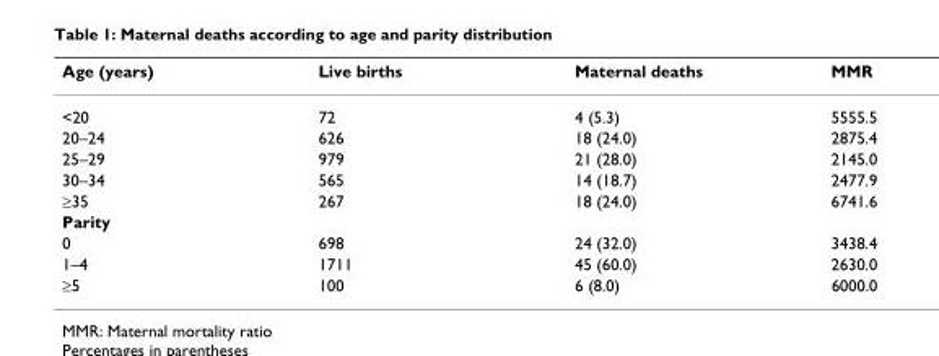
<table><thead><tr><td>Age (years)</td><td>Live births</td><td>Maternal deaths</td><td>MMR</td></tr></thead><tbody><tr><td>&lt;20</td><td>72</td><td>4 (5.3)</td><td>5555.5</td></tr><tr><td>20–24</td><td>626</td><td>18 (24.0)</td><td>2875.4</td></tr><tr><td>25–29</td><td>979</td><td>21 (28.0)</td><td>2145.0</td></tr><tr><td>30–34</td><td>565</td><td>14 (18.7)</td><td>2477.9</td></tr><tr><td>≥35</td><td>267</td><td>18 (24.0)</td><td>6741.6</td></tr><tr><td colspan="4">Parity</td></tr><tr><td>0</td><td>698</td><td>24 (32.0)</td><td>3438.4</td></tr><tr><td>1–4</td><td>1711</td><td>45 (60.0)</td><td>2630.0</td></tr><tr><td>≥5</td><td>100</td><td>6 (8.0)</td><td>6000.0</td></tr></tbody></table>